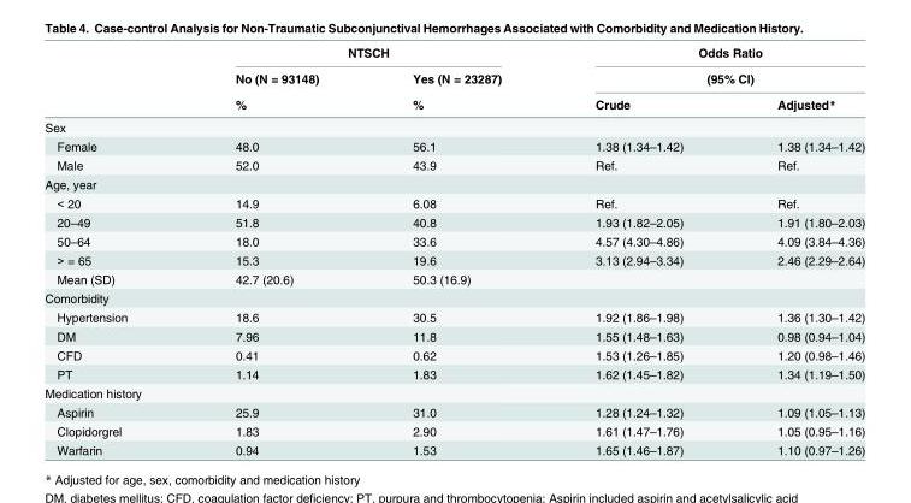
<table><thead><tr><td rowspan="3"></td><td colspan="2">NTSCH</td><td rowspan="2" colspan="2">Odds Ratio (95% CI)</td></tr><tr><td rowspan="2">No (N = 93148) %</td><td rowspan="2">Yes (N = 23287) %</td></tr><tr><td>Crude</td><td>Adjusted*</td></tr></thead><tbody><tr><td colspan="5">Sex</td></tr><tr><td>Female</td><td>48.0</td><td>56.1</td><td>1.38 (1.34–1.42)</td><td>1.38 (1.34–1.42)</td></tr><tr><td>Male</td><td>52.0</td><td>43.9</td><td>Ref.</td><td>Ref.</td></tr><tr><td colspan="5">Age, year</td></tr><tr><td>&lt; 20</td><td>14.9</td><td>6.08</td><td>Ref.</td><td>Ref.</td></tr><tr><td>20–49</td><td>51.8</td><td>40.8</td><td>1.93 (1.82–2.05)</td><td>1.91 (1.80–2.03)</td></tr><tr><td>50–64</td><td>18.0</td><td>33.6</td><td>4.57 (4.30–4.86)</td><td>4.09 (3.84–4.36)</td></tr><tr><td>&gt; = 65</td><td>15.3</td><td>19.6</td><td>3.13 (2.94–3.34)</td><td>2.46 (2.29–2.64)</td></tr><tr><td>Mean (SD)</td><td>42.7 (20.6)</td><td>50.3 (16.9)</td><td></td><td></td></tr><tr><td colspan="5">Comorbidity</td></tr><tr><td>Hypertension</td><td>18.6</td><td>30.5</td><td>1.92 (1.86–1.98)</td><td>1.36 (1.30–1.42)</td></tr><tr><td>DM</td><td>7.96</td><td>11.8</td><td>1.55 (1.48–1.63)</td><td>0.98 (0.94–1.04)</td></tr><tr><td>CFD</td><td>0.41</td><td>0.62</td><td>1.53 (1.26–1.85)</td><td>1.20 (0.98–1.46)</td></tr><tr><td>PT</td><td>1.14</td><td>1.83</td><td>1.62 (1.45–1.82)</td><td>1.34 (1.19–1.50)</td></tr><tr><td colspan="5">Medication history</td></tr><tr><td>Aspirin</td><td>25.9</td><td>31.0</td><td>1.28 (1.24–1.32)</td><td>1.09 (1.05–1.13)</td></tr><tr><td>Clopidorgrel</td><td>1.83</td><td>2.90</td><td>1.61 (1.47–1.76)</td><td>1.05 (0.95–1.16)</td></tr><tr><td>Warfarin</td><td>0.94</td><td>1.53</td><td>1.65 (1.46–1.87)</td><td>1.10 (0.97–1.26)</td></tr></tbody></table>